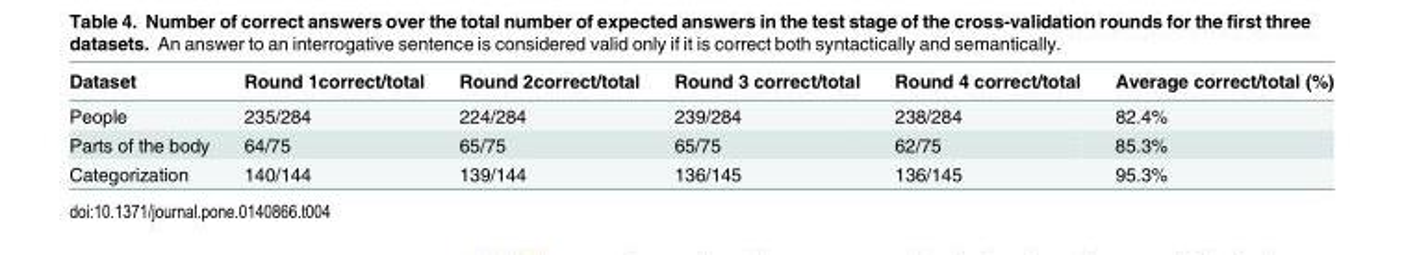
<table><thead><tr><td>Dataset</td><td>Round 1correct/total</td><td>Round 2correct/total</td><td>Round 3 correct/total</td><td>Round 4 correct/total</td><td>Average correct/total (%)</td></tr></thead><tbody><tr><td>People</td><td>235/284</td><td>224/284</td><td>239/284</td><td>238/284</td><td>82.4%</td></tr><tr><td>Parts of the body</td><td>64/75</td><td>65/75</td><td>65/75</td><td>62/75</td><td>85.3%</td></tr><tr><td>Categorization</td><td>140/144</td><td>139/144</td><td>136/145</td><td>136/145</td><td>95.3%</td></tr></tbody></table>